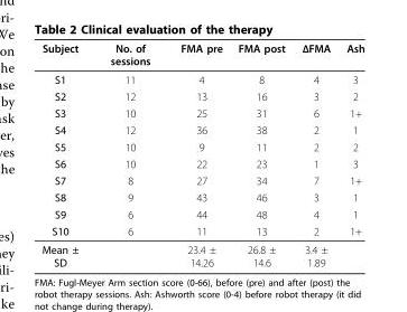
<table><thead><tr><td>Subject</td><td>No. of sessions</td><td>FMA pre</td><td>FMA post</td><td>ΔFMA</td><td>Ash</td></tr></thead><tbody><tr><td>S1</td><td>11</td><td>4</td><td>8</td><td>4</td><td>3</td></tr><tr><td>S2</td><td>12</td><td>13</td><td>16</td><td>3</td><td>2</td></tr><tr><td>S3</td><td>10</td><td>25</td><td>31</td><td>6</td><td>1+</td></tr><tr><td>S4</td><td>12</td><td>36</td><td>38</td><td>2</td><td>1</td></tr><tr><td>S5</td><td>10</td><td>9</td><td>11</td><td>2</td><td>2</td></tr><tr><td>S6</td><td>10</td><td>22</td><td>23</td><td>1</td><td>3</td></tr><tr><td>S7</td><td>8</td><td>27</td><td>34</td><td>7</td><td>1+</td></tr><tr><td>S8</td><td>9</td><td>43</td><td>46</td><td>3</td><td>1</td></tr><tr><td>S9</td><td>6</td><td>44</td><td>48</td><td>4</td><td>1</td></tr><tr><td>S10</td><td>6</td><td>11</td><td>13</td><td>2</td><td>1+</td></tr><tr><td>Mean ± SD</td><td></td><td>23.4 ± 14.26</td><td>26.8 ± 14.6</td><td>3.4 ± 1.89</td><td></td></tr></tbody></table>